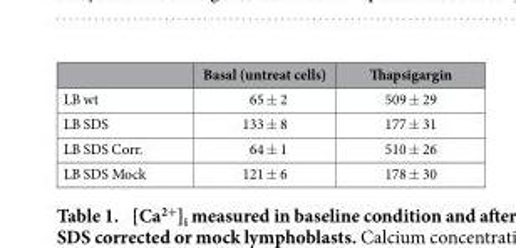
<table><thead><tr><td></td><td>Basal (untreat cells)</td><td>Thapsigargin</td></tr></thead><tbody><tr><td>LB wt</td><td>65 ± 2</td><td>509 ± 29</td></tr><tr><td>LB SDS</td><td>133 ± 8</td><td>177 ± 31</td></tr><tr><td>LB SDS Corr.</td><td>64 ± 1</td><td>510 ± 26</td></tr><tr><td>LB SDS Mock</td><td>121 ± 6</td><td>178 ± 30</td></tr></tbody></table>